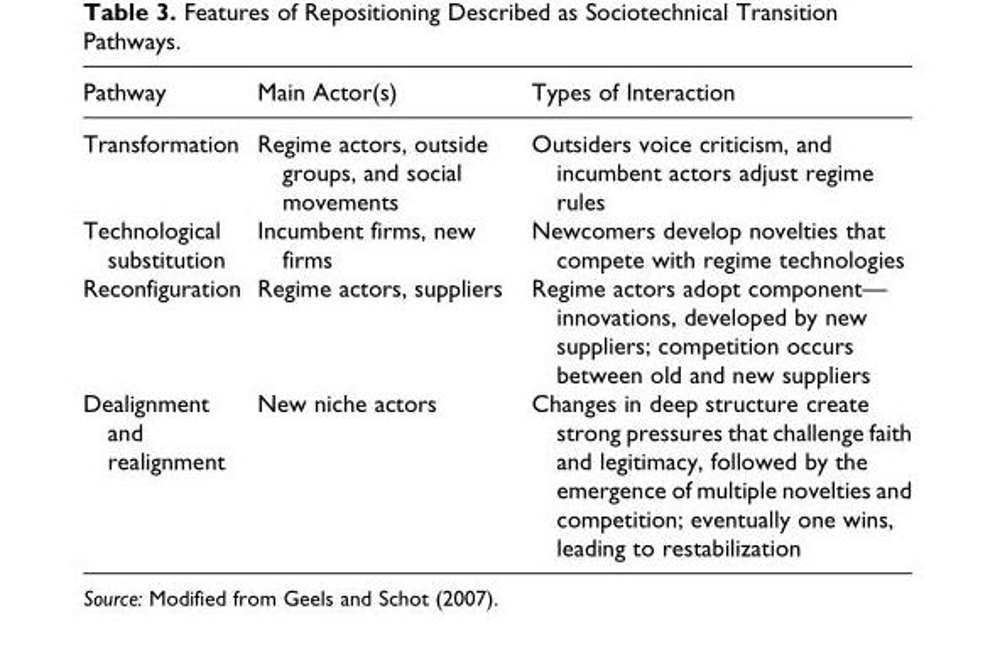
<table><thead><tr><td>Pathway</td><td>Main Actor(s)</td><td>Types of Interaction</td></tr></thead><tbody><tr><td>Transformation</td><td>Regime actors, outside groups, and social movements</td><td>Outsiders voice criticism, and incumbent actors adjust regime rules</td></tr><tr><td>Technological substitution</td><td>Incumbent firms, new firms</td><td>Newcomers develop novelties that compete with regime technologies</td></tr><tr><td>Reconfiguration</td><td>Regime actors, suppliers</td><td>Regime actors adopt component— innovations, developed by new suppliers; competition occurs between old and new suppliers</td></tr><tr><td>Dealignment and realignment</td><td>New niche actors</td><td>Changes in deep structure create strong pressures that challenge faith and legitimacy, followed by the emergence of multiple novelties and competition; eventually one wins, leading to restabilization</td></tr></tbody></table>